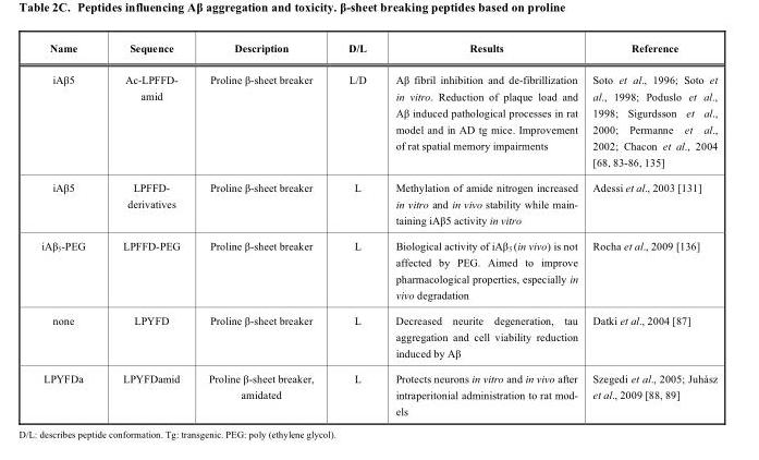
<table><thead><tr><td>Name</td><td>Sequence</td><td>Description</td><td>D/L</td><td>Results</td><td>Reference</td></tr></thead><tbody><tr><td>iAβ5</td><td>Ac-LPFFD- amid</td><td>Proline β-sheet breaker</td><td>L/D</td><td>Aβ fibril inhibition and de-fibrillization in vitro. Reduction of plaque load and Aβ induced pathological processes in rat model and in AD tg mice. Improvement of rat spatial memory impairments</td><td>Soto et al., 1996; Soto et al., 1998; Poduslo et al., 1998; Sigurdsson et al., 2000; Permanne et al., 2002; Chacon et al., 2004 [68, 83-86, 135]</td></tr><tr><td>iAβ5</td><td>LPFFD- derivatives</td><td>Proline β-sheet breaker</td><td>L</td><td>Methylation of amide nitrogen increased in vitro and in vivo stability while main- taining iA�5 activity in vitro</td><td>Adessi et al., 2003 [131]</td></tr><tr><td>iAβ<sub>5</sub>-PEG</td><td>LPFFD-PEG</td><td>Proline β-sheet breaker</td><td>L</td><td>Biological activity of iAβ<sub>5</sub> (in vivo) is not affected by PEG. Aimed to improve pharmacological properties, especially in vivo degradation</td><td>Rocha et al., 2009 [136]</td></tr><tr><td>none</td><td>LPYFD</td><td>Proline β-sheet breaker</td><td>L</td><td>Decreased neurite degeneration, tau aggregation and cell viability reduction induced by Aβ</td><td>Datki et al., 2004 [87]</td></tr><tr><td>LPYFDa</td><td>LPYFDamid</td><td>Proline β-sheet breaker, amidated</td><td>L</td><td>Protects neurons in vitro and in vivo after intraperitonial administration to rat mod- els</td><td>Szegedi et al., 2005; Juhász et al., 2009 [88, 89]</td></tr></tbody></table>